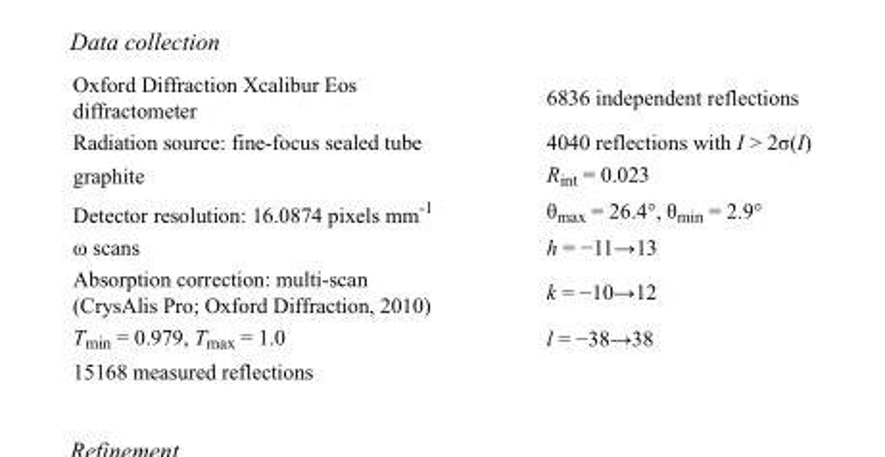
<table><tbody><tr><td>Oxford Diffraction Xcalibur Eos diffractometer</td><td>6836 independent reflections</td></tr><tr><td>Radiation source: fine-focus sealed tube</td><td>4040 reflections with I &gt; 2σ(I)</td></tr><tr><td>graphite</td><td>R<sub>int</sub> = 0.023</td></tr><tr><td>Detector resolution: 16.0874 pixels mm<sup>-1</sup></td><td>θ<sub>max</sub> = 26.4°, θ<sub>min</sub> = 2.9°</td></tr><tr><td>ω scans</td><td>h = −11→13</td></tr><tr><td>Absorption correction: multi-scan (CrysAlis Pro; Oxford Diffraction, 2010)</td><td>k = −10→12</td></tr><tr><td>T<sub>min</sub> = 0.979, T<sub>max</sub> = 1.0</td><td>l = −38→38</td></tr><tr><td>15168 measured reflections</td><td></td></tr></tbody></table>